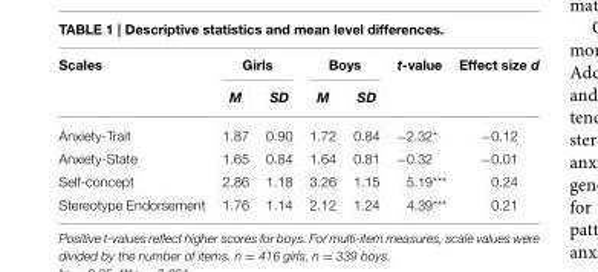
<table><thead><tr><td rowspan="2">Scales</td><td colspan="2">Girls</td><td colspan="2">Boys</td><td rowspan="2">t-value</td><td rowspan="2">Effect size d</td></tr><tr><td>M</td><td>SD</td><td>M</td><td>SD</td></tr></thead><tbody><tr><td>Anxiety-Trait</td><td>1.87</td><td>0.90</td><td>1.72</td><td>0.84</td><td>−2.32*</td><td>−0.12</td></tr><tr><td>Anxiety-State</td><td>1.65</td><td>0.84</td><td>1.64</td><td>0.81</td><td>−0.32</td><td>−0.01</td></tr><tr><td>Self-concept</td><td>2.86</td><td>1.18</td><td>3.26</td><td>1.15</td><td>5.19***</td><td>0.24</td></tr><tr><td>Stereotype Endorsement</td><td>1.76</td><td>1.14</td><td>2.12</td><td>1.24</td><td>4.39***</td><td>0.21</td></tr></tbody></table>